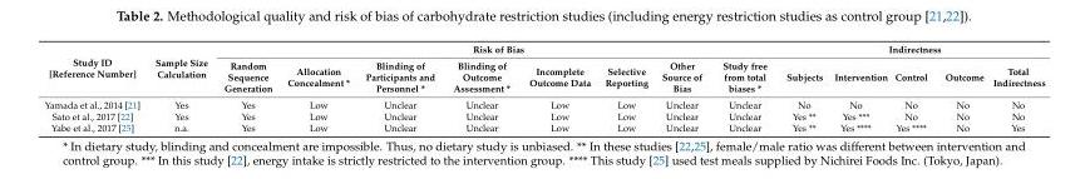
<table><thead><tr><td rowspan="2">Study ID [Reference Number]</td><td rowspan="2">Sample Size Calculation</td><td colspan="8">Risk of Bias</td><td colspan="5">Indirectness</td></tr><tr><td>Random Sequence Generation</td><td>Allocation Concealment *</td><td>Blinding of Participants and Personnel *</td><td>Blinding of Outcome Assessment *</td><td>Incomplete Outcome Data</td><td>Selective Reporting</td><td>Other Source of Bias</td><td>Study free from total biases *</td><td>Subjects</td><td>Intervention</td><td>Control</td><td>Outcome</td><td>Total Indirectness</td></tr></thead><tbody><tr><td>Yamada et al., 2014 [21]</td><td>Yes</td><td>Yes</td><td>Low</td><td>Unclear</td><td>Unclear</td><td>Low</td><td>Low</td><td>Unclear</td><td>Unclear</td><td>No</td><td>No</td><td>No</td><td>No</td><td>No</td></tr><tr><td>Sato et al., 2017 [22]</td><td>Yes</td><td>Yes</td><td>Low</td><td>Unclear</td><td>Unclear</td><td>Low</td><td>Low</td><td>Unclear</td><td>Unclear</td><td>Yes **</td><td>Yes ***</td><td>No</td><td>No</td><td>No</td></tr><tr><td>Yabe et al., 2017 [25]</td><td>n.a.</td><td>Yes</td><td>Low</td><td>Unclear</td><td>Unclear</td><td>Low</td><td>Low</td><td>Unclear</td><td>Unclear</td><td>Yes **</td><td>Yes ****</td><td>Yes ****</td><td>No</td><td>Yes</td></tr></tbody></table>